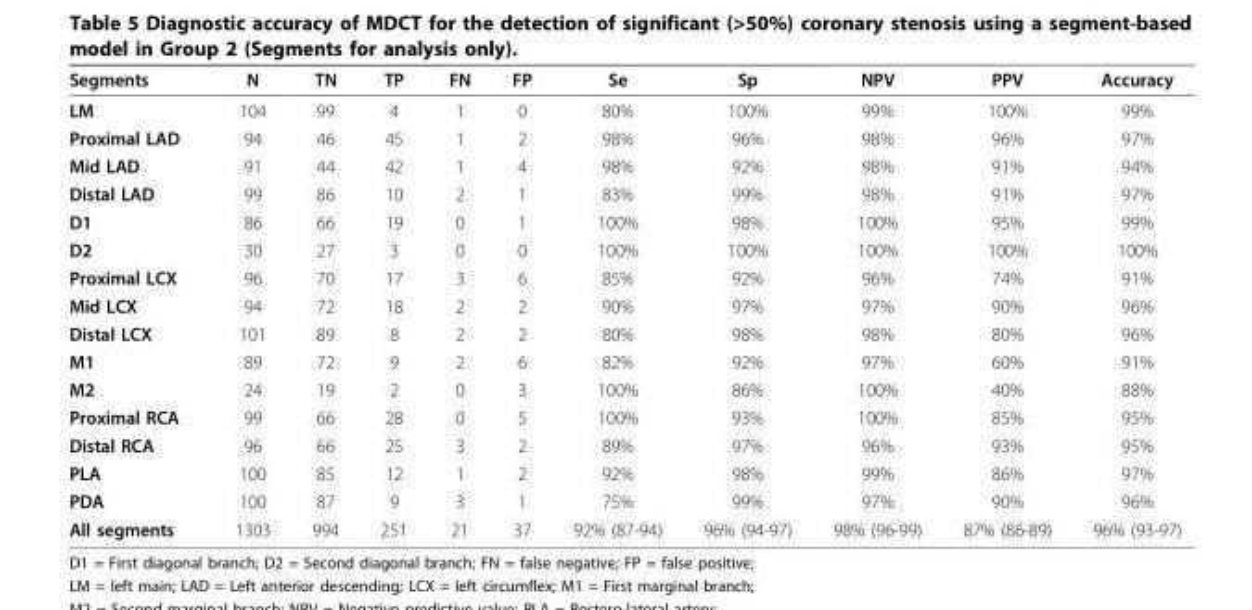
<table><thead><tr><td>Segments</td><td>N</td><td>TN</td><td>TP</td><td>FN</td><td>FP</td><td>Se</td><td>Sp</td><td>NPV</td><td>PPV</td><td>Accuracy</td></tr></thead><tbody><tr><td>LM</td><td>104</td><td>99</td><td>4</td><td>1</td><td>0</td><td>80%</td><td>100%</td><td>99%</td><td>100%</td><td>99%</td></tr><tr><td>Proximal LAD</td><td>94</td><td>46</td><td>45</td><td>1</td><td>2</td><td>98%</td><td>96%</td><td>98%</td><td>96%</td><td>97%</td></tr><tr><td>Mid LAD</td><td>91</td><td>44</td><td>42</td><td>1</td><td>4</td><td>98%</td><td>92%</td><td>98%</td><td>91%</td><td>94%</td></tr><tr><td>Distal LAD</td><td>99</td><td>86</td><td>10</td><td>2</td><td>1</td><td>83%</td><td>99%</td><td>98%</td><td>91%</td><td>97%</td></tr><tr><td>D1</td><td>86</td><td>66</td><td>19</td><td>0</td><td>1</td><td>100%</td><td>98%</td><td>100%</td><td>95%</td><td>99%</td></tr><tr><td>D2</td><td>30</td><td>27</td><td>3</td><td>0</td><td>0</td><td>100%</td><td>100%</td><td>100%</td><td>100%</td><td>100%</td></tr><tr><td>Proximal LCX</td><td>96</td><td>70</td><td>17</td><td>3</td><td>6</td><td>85%</td><td>92%</td><td>96%</td><td>74%</td><td>91%</td></tr><tr><td>Mid LCX</td><td>94</td><td>72</td><td>18</td><td>2</td><td>2</td><td>90%</td><td>97%</td><td>97%</td><td>90%</td><td>96%</td></tr><tr><td>Distal LCX</td><td>101</td><td>89</td><td>8</td><td>2</td><td>2</td><td>80%</td><td>98%</td><td>98%</td><td>80%</td><td>96%</td></tr><tr><td>M1</td><td>89</td><td>72</td><td>9</td><td>2</td><td>6</td><td>82%</td><td>92%</td><td>97%</td><td>60%</td><td>91%</td></tr><tr><td>M2</td><td>24</td><td>19</td><td>2</td><td>0</td><td>3</td><td>100%</td><td>86%</td><td>100%</td><td>40%</td><td>88%</td></tr><tr><td>Proximal RCA</td><td>99</td><td>66</td><td>28</td><td>0</td><td>5</td><td>100%</td><td>93%</td><td>100%</td><td>85%</td><td>95%</td></tr><tr><td>Distal RCA</td><td>96</td><td>66</td><td>25</td><td>3</td><td>2</td><td>89%</td><td>97%</td><td>96%</td><td>93%</td><td>95%</td></tr><tr><td>PLA</td><td>100</td><td>85</td><td>12</td><td>1</td><td>2</td><td>92%</td><td>98%</td><td>99%</td><td>86%</td><td>97%</td></tr><tr><td>PDA</td><td>100</td><td>87</td><td>9</td><td>3</td><td>1</td><td>75%</td><td>99%</td><td>97%</td><td>90%</td><td>96%</td></tr><tr><td>All segments</td><td>1303</td><td>994</td><td>251</td><td>21</td><td>37</td><td>92% (87-94)</td><td>96% (94-97)</td><td>98% (96-99)</td><td>87% (86-89)</td><td>96% (93-97)</td></tr></tbody></table>